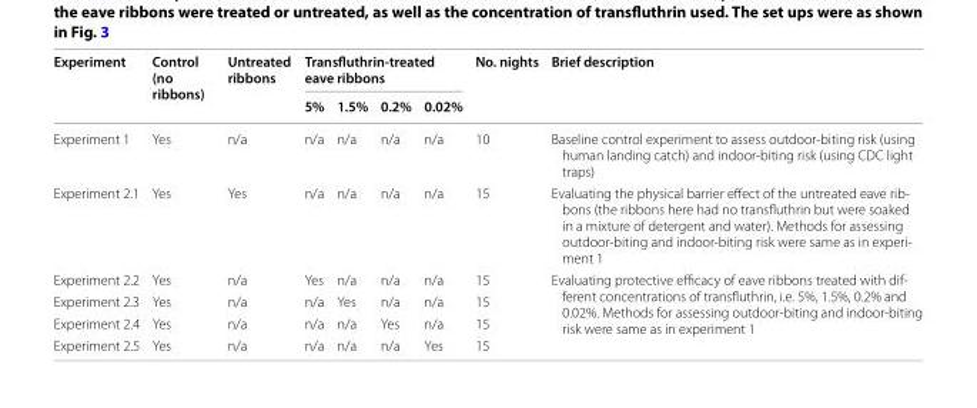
<table><thead><tr><td rowspan="2">Experiment</td><td rowspan="2">Control (no ribbons)</td><td rowspan="2">Untreated ribbons</td><td colspan="4">Transfluthrin‑treated eave ribbons</td><td rowspan="2">No. nights</td><td rowspan="2">Brief description</td></tr><tr><td>5%</td><td>1.5%</td><td>0.2%</td><td>0.02%</td></tr></thead><tbody><tr><td>Experiment 1</td><td>Yes</td><td>n/a</td><td>n/a</td><td>n/a</td><td>n/a</td><td>n/a</td><td>10</td><td>Baseline control experiment to assess outdoor-biting risk (using human landing catch) and indoor-biting risk (using CDC light traps)</td></tr><tr><td>Experiment 2.1</td><td>Yes</td><td>Yes</td><td>n/a</td><td>n/a</td><td>n/a</td><td>n/a</td><td>15</td><td>Evaluating the physical barrier effect of the untreated eave rib- bons (the ribbons here had no transfluthrin but were soaked in a mixture of detergent and water). Methods for assessing outdoor-biting and indoor-biting risk were same as in experi- ment 1</td></tr><tr><td>Experiment 2.2</td><td>Yes</td><td>n/a</td><td>Yes</td><td>n/a</td><td>n/a</td><td>n/a</td><td>15</td><td rowspan="4">Evaluating protective efficacy of eave ribbons treated with dif- ferent concentrations of transfluthrin, i.e. 5%, 1.5%, 0.2% and 0.02%. Methods for assessing outdoor-biting and indoor-biting risk were same as in experiment 1</td></tr><tr><td>Experiment 2.3</td><td>Yes</td><td>n/a</td><td>n/a</td><td>Yes</td><td>n/a</td><td>n/a</td><td>15</td></tr><tr><td>Experiment 2.4</td><td>Yes</td><td>n/a</td><td>n/a</td><td>n/a</td><td>Yes</td><td>n/a</td><td>15</td></tr><tr><td>Experiment 2.5</td><td>Yes</td><td>n/a</td><td>n/a</td><td>n/a</td><td>n/a</td><td>Yes</td><td>15</td></tr></tbody></table>